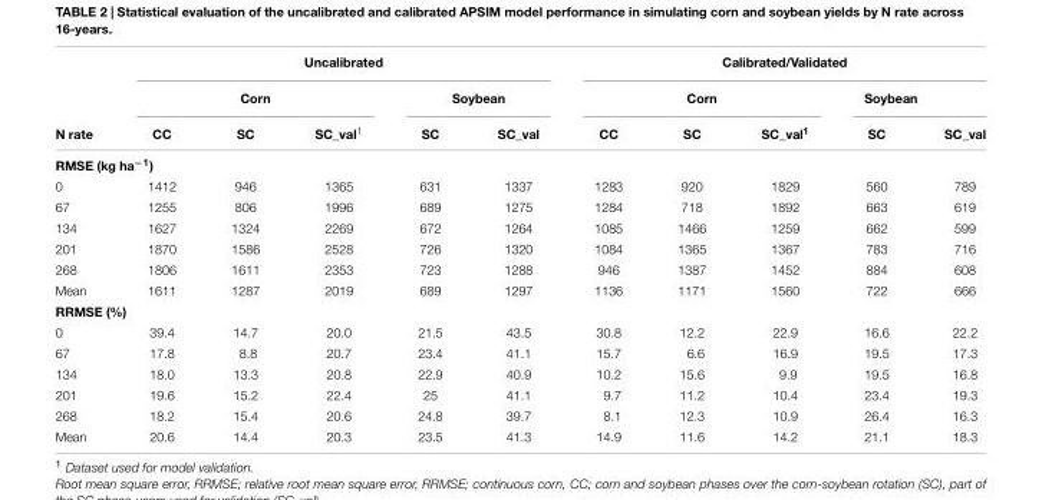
<table><thead><tr><td rowspan="3">N rate</td><td colspan="5">Uncalibrated</td><td colspan="5">Calibrated/Validated</td></tr><tr><td colspan="3">Corn</td><td colspan="2">Soybean</td><td colspan="3">Corn</td><td colspan="2">Soybean</td></tr><tr><td>CC</td><td>SC</td><td>SC_val<sup>1</sup></td><td>SC</td><td>SC_val</td><td>CC</td><td>SC</td><td>SC_val<sup>1</sup></td><td>SC</td><td>SC_val</td></tr></thead><tbody><tr><td colspan="11">RMSE (kg ha<sup>−1</sup>)</td></tr><tr><td>0</td><td>1412</td><td>946</td><td>1365</td><td>631</td><td>1337</td><td>1283</td><td>920</td><td>1829</td><td>560</td><td>789</td></tr><tr><td>67</td><td>1255</td><td>806</td><td>1996</td><td>689</td><td>1275</td><td>1284</td><td>718</td><td>1892</td><td>663</td><td>619</td></tr><tr><td>134</td><td>1627</td><td>1324</td><td>2269</td><td>672</td><td>1264</td><td>1085</td><td>1466</td><td>1259</td><td>662</td><td>599</td></tr><tr><td>201</td><td>1870</td><td>1586</td><td>2528</td><td>726</td><td>1320</td><td>1084</td><td>1365</td><td>1367</td><td>783</td><td>716</td></tr><tr><td>268</td><td>1806</td><td>1611</td><td>2353</td><td>723</td><td>1288</td><td>946</td><td>1387</td><td>1452</td><td>884</td><td>608</td></tr><tr><td>Mean</td><td>1611</td><td>1287</td><td>2019</td><td>689</td><td>1297</td><td>1136</td><td>1171</td><td>1560</td><td>722</td><td>666</td></tr><tr><td colspan="11">RRMSE (%)</td></tr><tr><td>0</td><td>39.4</td><td>14.7</td><td>20.0</td><td>21.5</td><td>43.5</td><td>30.8</td><td>12.2</td><td>22.9</td><td>16.6</td><td>22.2</td></tr><tr><td>67</td><td>17.8</td><td>8.8</td><td>20.7</td><td>23.4</td><td>41.1</td><td>15.7</td><td>6.6</td><td>16.9</td><td>19.5</td><td>17.3</td></tr><tr><td>134</td><td>18.0</td><td>13.3</td><td>20.8</td><td>22.9</td><td>40.9</td><td>10.2</td><td>15.6</td><td>9.9</td><td>19.5</td><td>16.8</td></tr><tr><td>201</td><td>19.6</td><td>15.2</td><td>22.4</td><td>25</td><td>41.1</td><td>9.7</td><td>11.2</td><td>10.4</td><td>23.4</td><td>19.3</td></tr><tr><td>268</td><td>18.2</td><td>15.4</td><td>20.6</td><td>24.8</td><td>39.7</td><td>8.1</td><td>12.3</td><td>10.9</td><td>26.4</td><td>16.3</td></tr><tr><td>Mean</td><td>20.6</td><td>14.4</td><td>20.3</td><td>23.5</td><td>41.3</td><td>14.9</td><td>11.6</td><td>14.2</td><td>21.1</td><td>18.3</td></tr></tbody></table>